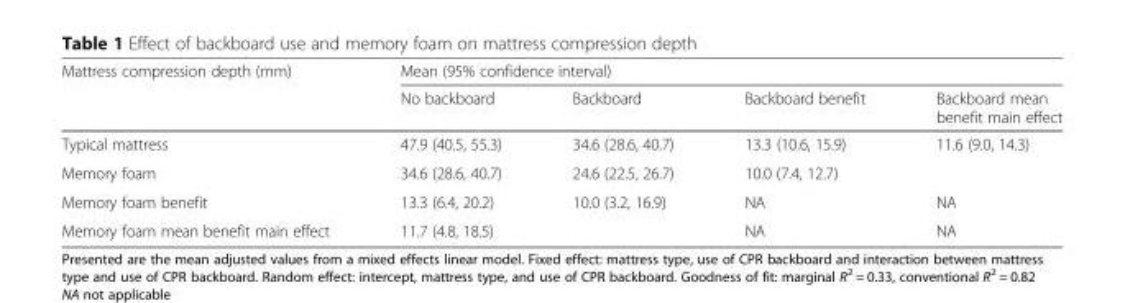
<table><thead><tr><td rowspan="2">Mattress compression depth (mm)</td><td colspan="4">Mean (95% confidence interval)</td></tr><tr><td>No backboard</td><td>Backboard</td><td>Backboard benefit</td><td>Backboard mean benefit main effect</td></tr></thead><tbody><tr><td>Typical mattress</td><td>47.9 (40.5, 55.3)</td><td>34.6 (28.6, 40.7)</td><td>13.3 (10.6, 15.9)</td><td rowspan="2">11.6 (9.0, 14.3)</td></tr><tr><td>Memory foam</td><td>34.6 (28.6, 40.7)</td><td>24.6 (22.5, 26.7)</td><td>10.0 (7.4, 12.7)</td></tr><tr><td>Memory foam benefit</td><td>13.3 (6.4, 20.2)</td><td>10.0 (3.2, 16.9)</td><td>NA</td><td>NA</td></tr><tr><td>Memory foam mean benefit main effect</td><td colspan="2">11.7 (4.8, 18.5)</td><td>NA</td><td>NA</td></tr></tbody></table>